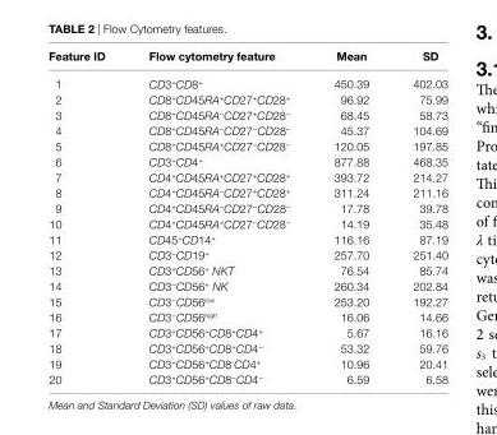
<table><thead><tr><td>Feature iD</td><td>Flow cytometry feature</td><td>Mean</td><td>sD</td></tr></thead><tbody><tr><td>1</td><td>CD3<sup>+</sup>CD8<sup>+</sup></td><td>450.39</td><td>402.03</td></tr><tr><td>2</td><td>CD8<sup>+</sup>CD45RA<sup>+</sup>CD27<sup>+</sup>CD28<sup>+</sup></td><td>96.92</td><td>75.99</td></tr><tr><td>3</td><td>CD8<sup>+</sup>CD45RA<sup>−</sup>CD27<sup>+</sup>CD28<sup>−</sup></td><td>68.45</td><td>58.73</td></tr><tr><td>4</td><td>CD8<sup>+</sup>CD45RA<sup>−</sup>CD27<sup>−</sup>CD28<sup>−</sup></td><td>45.37</td><td>104.69</td></tr><tr><td>5</td><td>CD8<sup>+</sup>CD45RA<sup>+</sup>CD27<sup>−</sup>CD28<sup>−</sup></td><td>120.05</td><td>197.85</td></tr><tr><td>6</td><td>CD3<sup>+</sup>CD4<sup>+</sup></td><td>877.88</td><td>468.35</td></tr><tr><td>7</td><td>CD4<sup>+</sup>CD45RA<sup>+</sup>CD27<sup>+</sup>CD28<sup>+</sup></td><td>393.72</td><td>214.27</td></tr><tr><td>8</td><td>CD4<sup>+</sup>CD45RA<sup>−</sup>CD27<sup>+</sup>CD28<sup>+</sup></td><td>311.24</td><td>211.16</td></tr><tr><td>9</td><td>CD4<sup>+</sup>CD45RA<sup>−</sup>CD27<sup>−</sup>CD28<sup>−</sup></td><td>17.78</td><td>39.78</td></tr><tr><td>10</td><td>CD4<sup>+</sup>CD45RA<sup>+</sup>CD27<sup>−</sup>CD28<sup>−</sup></td><td>14.19</td><td>35.48</td></tr><tr><td>11</td><td>CD45<sup>+</sup>CD14<sup>+</sup></td><td>116.16</td><td>87.19</td></tr><tr><td>12</td><td>CD3<sup>−</sup>CD19<sup>+</sup></td><td>257.70</td><td>251.40</td></tr><tr><td>13</td><td>CD3<sup>+</sup>CD56<sup>+</sup> NKT</td><td>76.54</td><td>85.74</td></tr><tr><td>14</td><td>CD3<sup>−</sup>CD56<sup>+</sup> NK</td><td>260.34</td><td>202.84</td></tr><tr><td>15</td><td>CD3<sup>−</sup>CD56<sup>low</sup></td><td>253.20</td><td>192.27</td></tr><tr><td>16</td><td>CD3<sup>−</sup>CD56<sup>high</sup></td><td>16.06</td><td>14.66</td></tr><tr><td>17</td><td>CD3<sup>+</sup>CD56<sup>+</sup>CD8<sup>+</sup>CD4<sup>+</sup></td><td>5.67</td><td>16.16</td></tr><tr><td>18</td><td>CD3<sup>+</sup>CD56<sup>+</sup>CD8<sup>+</sup>CD4<sup>−</sup></td><td>53.32</td><td>59.76</td></tr><tr><td>19</td><td>CD3<sup>+</sup>CD56<sup>+</sup>CD8<sup>-</sup>CD4<sup>+</sup></td><td>10.96</td><td>20.41</td></tr><tr><td>20</td><td>CD3<sup>+</sup>CD56<sup>+</sup>CD8<sup>−</sup>CD4<sup>−</sup></td><td>6.59</td><td>6.58</td></tr></tbody></table>